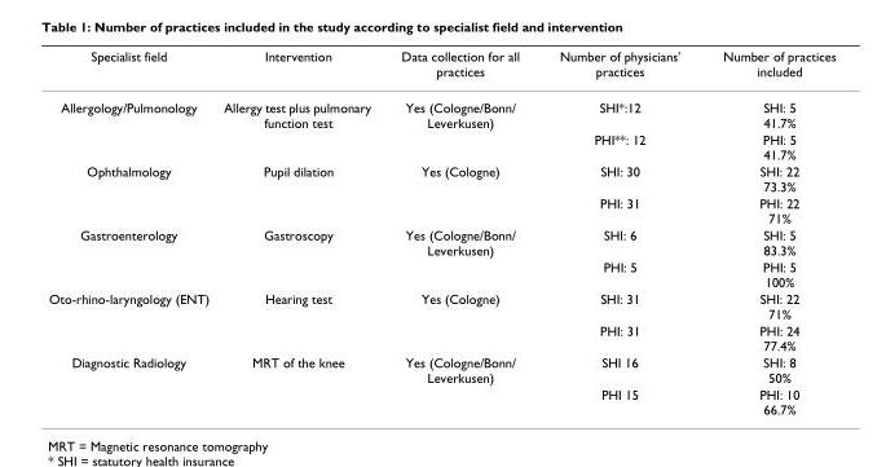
<table><thead><tr><td>Specialist field</td><td>Intervention</td><td>Data collection for all practices</td><td>Number of physicians&#x27; practices</td><td>Number of practices included</td></tr></thead><tbody><tr><td rowspan="2">Allergology/Pulmonology</td><td>Allergy test plus pulmonary function test</td><td>Yes (Cologne/Bonn/ Leverkusen)</td><td>SHI*:12</td><td>SHI: 5 41.7%</td></tr><tr><td></td><td></td><td>PHI**: 12</td><td>PHI: 5 41.7%</td></tr><tr><td rowspan="2">Ophthalmology</td><td>Pupil dilation</td><td>Yes (Cologne)</td><td>SHI: 30</td><td>SHI: 22 73.3%</td></tr><tr><td></td><td></td><td>PHI: 31</td><td>PHI: 22 71%</td></tr><tr><td rowspan="2">Gastroenterology</td><td>Gastroscopy</td><td>Yes (Cologne/Bonn/ Leverkusen)</td><td>SHI: 6</td><td>SHI: 5 83.3%</td></tr><tr><td></td><td></td><td>PHI: 5</td><td>PHI: 5 100%</td></tr><tr><td rowspan="2">Oto-rhino-laryngology (ENT)</td><td>Hearing test</td><td>Yes (Cologne)</td><td>SHI: 31</td><td>SHI: 22 71%</td></tr><tr><td></td><td></td><td>PHI: 31</td><td>PHI: 24 77.4%</td></tr><tr><td rowspan="2">Diagnostic Radiology</td><td>MRT of the knee</td><td>Yes (Cologne/Bonn/ Leverkusen)</td><td>SHI 16</td><td>SHI: 8 50%</td></tr><tr><td></td><td></td><td>PHI 15</td><td>PHI: 10 66.7%</td></tr></tbody></table>